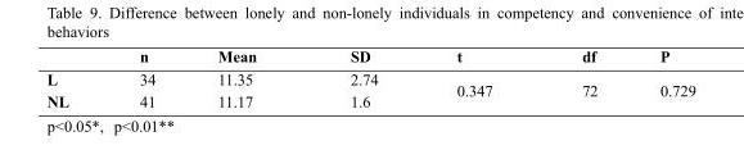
<table><thead><tr><td></td><td>n</td><td>Mean</td><td>SD</td><td>t</td><td>df</td><td>P</td></tr></thead><tbody><tr><td>L</td><td>34</td><td>11.35</td><td>2.74</td><td rowspan="2">0.347</td><td rowspan="2">72</td><td rowspan="2">0.729</td></tr><tr><td>NL</td><td>41</td><td>11.17</td><td>1.6</td></tr></tbody></table>